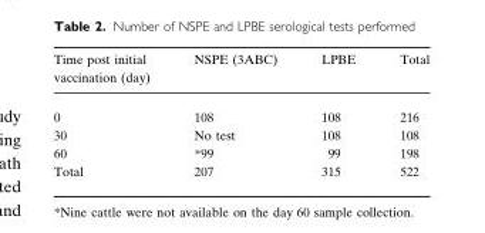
<table><thead><tr><td>Time post initial vaccination (day)</td><td>NSPE (3ABC)</td><td>LPBE</td><td>Total</td></tr></thead><tbody><tr><td>0</td><td>108</td><td>108</td><td>216</td></tr><tr><td>30</td><td>No test</td><td>108</td><td>108</td></tr><tr><td>60</td><td>*99</td><td>99</td><td>198</td></tr><tr><td>Total</td><td>207</td><td>315</td><td>522</td></tr></tbody></table>